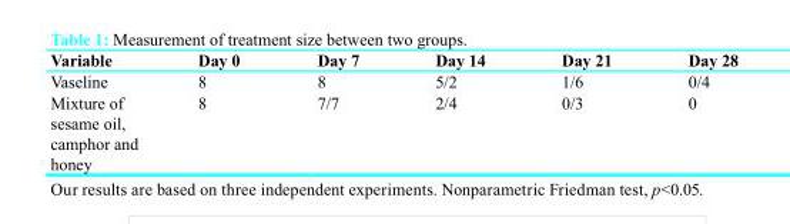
<table><thead><tr><td>Variable</td><td>Day 0</td><td>Day 7</td><td>Day 14</td><td>Day 21</td><td>Day 28</td></tr></thead><tbody><tr><td>Vaseline</td><td>8</td><td>8</td><td>5/2</td><td>1/6</td><td>0/4</td></tr><tr><td>Mixture of sesame oil, camphor and honey</td><td>8</td><td>7/7</td><td>2/4</td><td>0/3</td><td>0</td></tr></tbody></table>